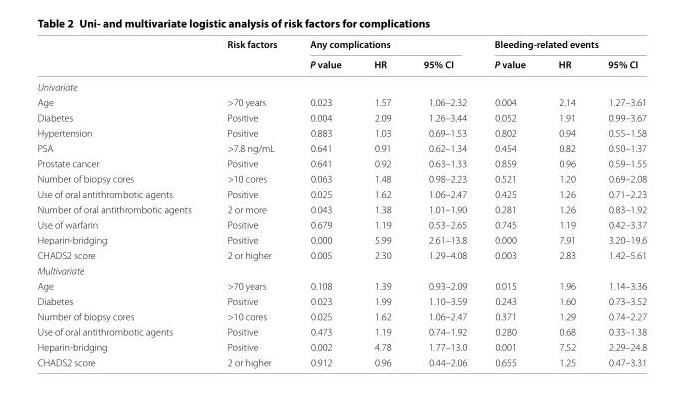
<table><thead><tr><td rowspan="2"></td><td rowspan="2">Risk factors</td><td colspan="3">Any complications</td><td colspan="3">Bleeding-related events</td></tr><tr><td>P value</td><td>HR</td><td>95% CI</td><td>P value</td><td>HR</td><td>95% CI</td></tr></thead><tbody><tr><td colspan="8">Univariate</td></tr><tr><td>Age</td><td>&gt;70 years</td><td>0.023</td><td>1.57</td><td>1.06–2.32</td><td>0.004</td><td>2.14</td><td>1.27–3.61</td></tr><tr><td>Diabetes</td><td>Positive</td><td>0.004</td><td>2.09</td><td>1.26–3.44</td><td>0.052</td><td>1.91</td><td>0.99–3.67</td></tr><tr><td>Hypertension</td><td>Positive</td><td>0.883</td><td>1.03</td><td>0.69–1.53</td><td>0.802</td><td>0.94</td><td>0.55–1.58</td></tr><tr><td>PSA</td><td>&gt;7.8 ng/mL</td><td>0.641</td><td>0.91</td><td>0.62–1.34</td><td>0.454</td><td>0.82</td><td>0.50–1.37</td></tr><tr><td>Prostate cancer</td><td>Positive</td><td>0.641</td><td>0.92</td><td>0.63–1.33</td><td>0.859</td><td>0.96</td><td>0.59–1.55</td></tr><tr><td>Number of biopsy cores</td><td>&gt;10 cores</td><td>0.063</td><td>1.48</td><td>0.98–2.23</td><td>0.521</td><td>1.20</td><td>0.69–2.08</td></tr><tr><td>Use of oral antithrombotic agents</td><td>Positive</td><td>0.025</td><td>1.62</td><td>1.06–2.47</td><td>0.425</td><td>1.26</td><td>0.71–2.23</td></tr><tr><td>Number of oral antithrombotic agents</td><td>2 or more</td><td>0.043</td><td>1.38</td><td>1.01–1.90</td><td>0.281</td><td>1.26</td><td>0.83–1.92</td></tr><tr><td>Use of warfarin</td><td>Positive</td><td>0.679</td><td>1.19</td><td>0.53–2.65</td><td>0.745</td><td>1.19</td><td>0.42–3.37</td></tr><tr><td>Heparin-bridging</td><td>Positive</td><td>0.000</td><td>5.99</td><td>2.61–13.8</td><td>0.000</td><td>7.91</td><td>3.20–19.6</td></tr><tr><td>CHADS2 score</td><td>2 or higher</td><td>0.005</td><td>2.30</td><td>1.29–4.08</td><td>0.003</td><td>2.83</td><td>1.42–5.61</td></tr><tr><td colspan="8">Multivariate</td></tr><tr><td>Age</td><td>&gt;70 years</td><td>0.108</td><td>1.39</td><td>0.93–2.09</td><td>0.015</td><td>1.96</td><td>1.14–3.36</td></tr><tr><td>Diabetes</td><td>Positive</td><td>0.023</td><td>1.99</td><td>1.10–3.59</td><td>0.243</td><td>1.60</td><td>0.73–3.52</td></tr><tr><td>Number of biopsy cores</td><td>&gt;10 cores</td><td>0.025</td><td>1.62</td><td>1.06–2.47</td><td>0.371</td><td>1.29</td><td>0.74–2.27</td></tr><tr><td>Use of oral antithrombotic agents</td><td>Positive</td><td>0.473</td><td>1.19</td><td>0.74–1.92</td><td>0.280</td><td>0.68</td><td>0.33–1.38</td></tr><tr><td>Heparin-bridging</td><td>Positive</td><td>0.002</td><td>4.78</td><td>1.77–13.0</td><td>0.001</td><td>7.52</td><td>2.29–24.8</td></tr><tr><td>CHADS2 score</td><td>2 or higher</td><td>0.912</td><td>0.96</td><td>0.44–2.06</td><td>0.655</td><td>1.25</td><td>0.47–3.31</td></tr></tbody></table>